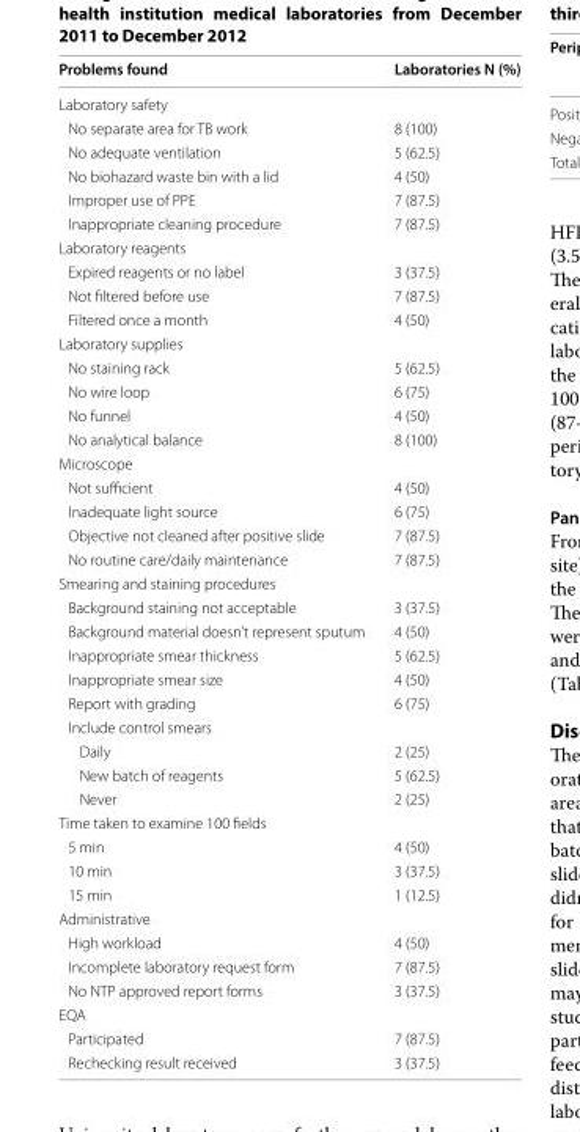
<table><thead><tr><td>Problems found</td><td>Laboratories N (%)</td></tr></thead><tbody><tr><td colspan="2">Laboratory safety</td></tr><tr><td>No separate area for TB work</td><td>8 (100)</td></tr><tr><td>No adequate ventilation</td><td>5 (62.5)</td></tr><tr><td>No biohazard waste bin with a lid</td><td>4 (50)</td></tr><tr><td>Improper use of PPE</td><td>7 (87.5)</td></tr><tr><td>Inappropriate cleaning procedure</td><td>7 (87.5)</td></tr><tr><td colspan="2">Laboratory reagents</td></tr><tr><td>Expired reagents or no label</td><td>3 (37.5)</td></tr><tr><td>Not filtered before use</td><td>7 (87.5)</td></tr><tr><td>Filtered once a month</td><td>4 (50)</td></tr><tr><td colspan="2">Laboratory supplies</td></tr><tr><td>No staining rack</td><td>5 (62.5)</td></tr><tr><td>No wire loop</td><td>6 (75)</td></tr><tr><td>No funnel</td><td>4 (50)</td></tr><tr><td>No analytical balance</td><td>8 (100)</td></tr><tr><td colspan="2">Microscope</td></tr><tr><td>Not sufficient</td><td>4 (50)</td></tr><tr><td>Inadequate light source</td><td>6 (75)</td></tr><tr><td>Objective not cleaned after positive slide</td><td>7 (87.5)</td></tr><tr><td>No routine care/daily maintenance</td><td>7 (87.5)</td></tr><tr><td colspan="2">Smearing and staining procedures</td></tr><tr><td>Background staining not acceptable</td><td>3 (37.5)</td></tr><tr><td>Background material doesn’t represent sputum</td><td>4 (50)</td></tr><tr><td>Inappropriate smear thickness</td><td>5 (62.5)</td></tr><tr><td>Inappropriate smear size</td><td>4 (50)</td></tr><tr><td>Report with grading</td><td>6 (75)</td></tr><tr><td colspan="2">Include control smears</td></tr><tr><td>Daily</td><td>2 (25)</td></tr><tr><td>New batch of reagents</td><td>5 (62.5)</td></tr><tr><td>Never</td><td>2 (25)</td></tr><tr><td colspan="2">Time taken to examine 100 fields</td></tr><tr><td>5 min</td><td>4 (50)</td></tr><tr><td>10 min</td><td>3 (37.5)</td></tr><tr><td>15 min</td><td>1 (12.5)</td></tr><tr><td colspan="2">Administrative</td></tr><tr><td>High workload</td><td>4 (50)</td></tr><tr><td>Incomplete laboratory request form</td><td>7 (87.5)</td></tr><tr><td>No NTP approved report forms</td><td>3 (37.5)</td></tr><tr><td colspan="2">EQA</td></tr><tr><td>Participated</td><td>7 (87.5)</td></tr><tr><td>Rechecking result received</td><td>3 (37.5)</td></tr></tbody></table>